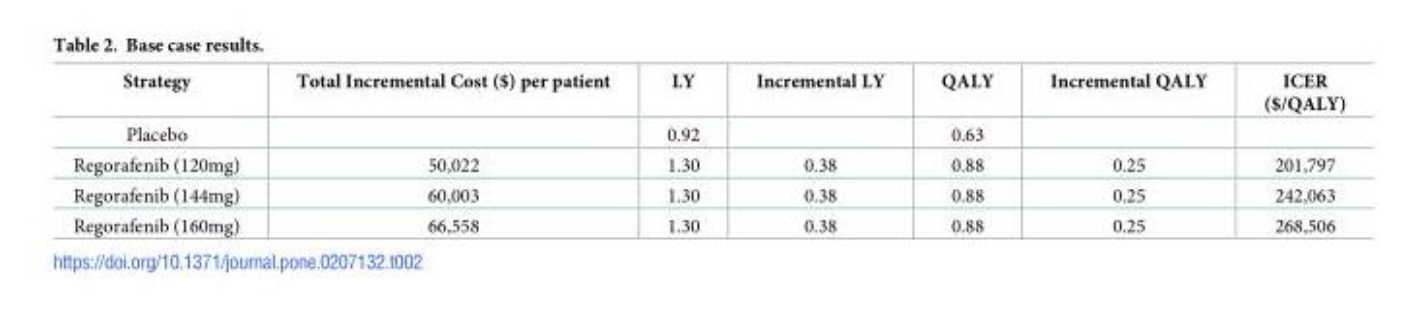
<table><thead><tr><td>Strategy</td><td>Total Incremental Cost ($) per patient</td><td>LY</td><td>Incremental LY</td><td>QALY</td><td>Incremental QALY</td><td>ICER ($/QALY)</td></tr></thead><tbody><tr><td>Placebo</td><td></td><td>0.92</td><td></td><td>0.63</td><td></td><td></td></tr><tr><td>Regorafenib (120mg)</td><td>50,022</td><td>1.30</td><td>0.38</td><td>0.88</td><td>0.25</td><td>201,797</td></tr><tr><td>Regorafenib (144mg)</td><td>60,003</td><td>1.30</td><td>0.38</td><td>0.88</td><td>0.25</td><td>242,063</td></tr><tr><td>Regorafenib (160mg)</td><td>66,558</td><td>1.30</td><td>0.38</td><td>0.88</td><td>0.25</td><td>268,506</td></tr></tbody></table>